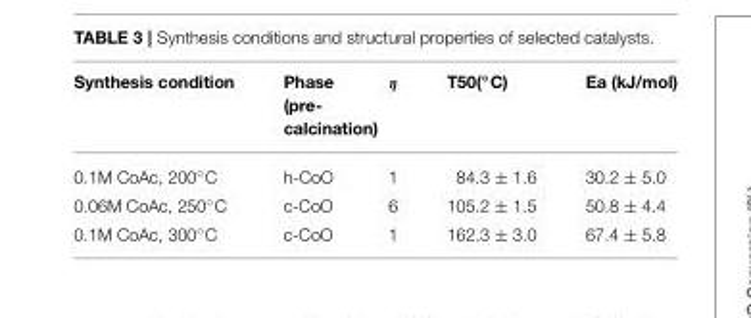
<table><thead><tr><td>Synthesis condition</td><td>Phase (pre- calcination)</td><td>η</td><td>T50(◦C)</td><td>Ea (kJ/mol)</td></tr></thead><tbody><tr><td>0.1M CoAc, 200◦C</td><td>h-CoO</td><td>1</td><td>84.3 ± 1.6</td><td>30.2 ± 5.0</td></tr><tr><td>0.06M CoAc, 250◦C</td><td>c-CoO</td><td>6</td><td>105.2 ± 1.5</td><td>50.8 ± 4.4</td></tr><tr><td>0.1M CoAc, 300◦C</td><td>c-CoO</td><td>1</td><td>162.3 ± 3.0</td><td>67.4 ± 5.8</td></tr></tbody></table>